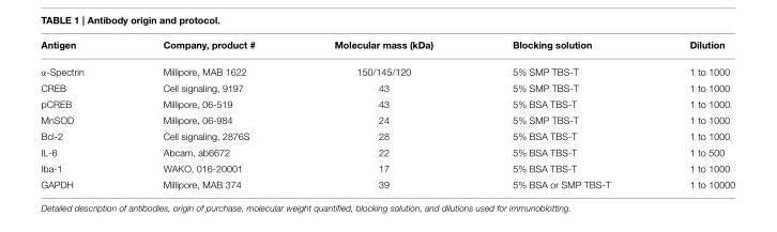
<table><thead><tr><td>Antigen</td><td>Company, product #</td><td>Molecular mass (kDa)</td><td>Blocking solution</td><td>Dilution</td></tr></thead><tbody><tr><td>α-Spectrin</td><td>Millipore, MAB 1622</td><td>150/145/120</td><td>5% SMP TBS-T</td><td>1 to 1000</td></tr><tr><td>CREB</td><td>Cell signaling, 9197</td><td>43</td><td>5% SMP TBS-T</td><td>1 to 1000</td></tr><tr><td>pCREB</td><td>Millipore, 06-519</td><td>43</td><td>5% BSA TBS-T</td><td>1 to 1000</td></tr><tr><td>MnSOD</td><td>Millipore, 06-984</td><td>24</td><td>5% SMP TBS-T</td><td>1 to 1000</td></tr><tr><td>Bcl-2</td><td>Cell signaling, 2876S</td><td>28</td><td>5% BSA TBS-T</td><td>1 to 1000</td></tr><tr><td>IL-6</td><td>Abcam, ab6672</td><td>22</td><td>5% BSA TBS-T</td><td>1 to 500</td></tr><tr><td>Iba-1</td><td>WAKO, 016-20001</td><td>17</td><td>5% BSA TBS-T</td><td>1 to 1000</td></tr><tr><td>GAPDH</td><td>Millipore, MAB 374</td><td>39</td><td>5% BSA or SMP TBS-T</td><td>1 to 10000</td></tr></tbody></table>